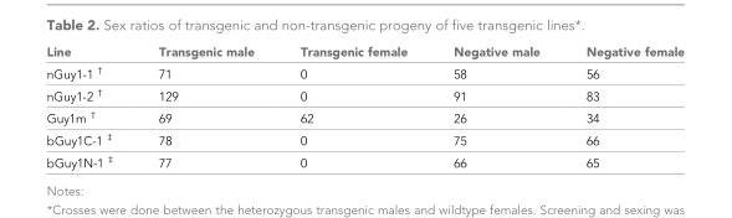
<table><thead><tr><td>Line</td><td>Transgenic male</td><td>Transgenic female</td><td>Negative male</td><td>Negative female</td></tr></thead><tbody><tr><td>nGuy1-1 <sup>†</sup></td><td>71</td><td>0</td><td>58</td><td>56</td></tr><tr><td>nGuy1-2 <sup>†</sup></td><td>129</td><td>0</td><td>91</td><td>83</td></tr><tr><td>Guy1m <sup>†</sup></td><td>69</td><td>62</td><td>26</td><td>34</td></tr><tr><td>bGuy1C-1 <sup>‡</sup></td><td>78</td><td>0</td><td>75</td><td>66</td></tr><tr><td>bGuy1N-1 <sup>‡</sup></td><td>77</td><td>0</td><td>66</td><td>65</td></tr></tbody></table>